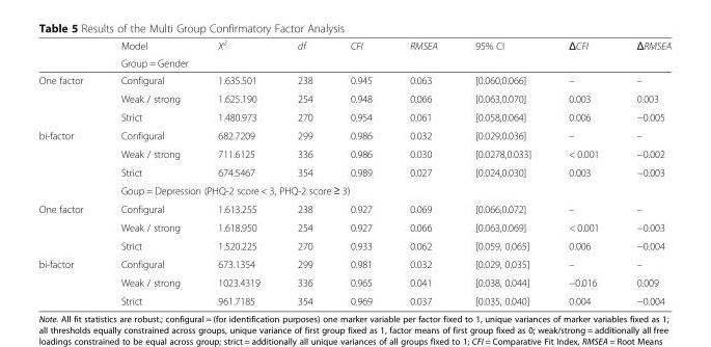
<table><thead><tr><td rowspan="2"></td><td>Model</td><td>X<sup>2</sup></td><td>df</td><td>CFI</td><td>RMSEA</td><td>95% CI</td><td>ΔCFI</td><td>ΔRMSEA</td></tr><tr><td colspan="8">Group = Gender</td></tr></thead><tbody><tr><td rowspan="3">One factor</td><td>Configural</td><td>1.635.501</td><td>238</td><td>0.945</td><td>0.063</td><td>[0.060,0.066]</td><td>–</td><td>–</td></tr><tr><td>Weak / strong</td><td>1.625.190</td><td>254</td><td>0.948</td><td>0.066</td><td>[0.063,0.070]</td><td>0.003</td><td>0.003</td></tr><tr><td>Strict</td><td>1.480.973</td><td>270</td><td>0.954</td><td>0.061</td><td>[0.058,0.064]</td><td>0.006</td><td>−0.005</td></tr><tr><td rowspan="4">bi-factor</td><td>Configural</td><td>682.7209</td><td>299</td><td>0.986</td><td>0.032</td><td>[0.029,0.036]</td><td>–</td><td>–</td></tr><tr><td>Weak / strong</td><td>711.6125</td><td>336</td><td>0.986</td><td>0.030</td><td>[0.0278,0.033]</td><td>&lt; 0.001</td><td>−0.002</td></tr><tr><td>Strict</td><td>674.5467</td><td>354</td><td>0.989</td><td>0.027</td><td>[0.024,0.030]</td><td>0.003</td><td>−0.003</td></tr><tr><td colspan="8">Goup = Depression (PHQ-2 score &lt; 3, PHQ-2 score ≥ 3)</td></tr><tr><td rowspan="3">One factor</td><td>Configural</td><td>1.613.255</td><td>238</td><td>0.927</td><td>0.069</td><td>[0.066,0.072]</td><td>–</td><td>–</td></tr><tr><td>Weak / strong</td><td>1.618.950</td><td>254</td><td>0.927</td><td>0.066</td><td>[0.063,0.069]</td><td>&lt; 0.001</td><td>−0.003</td></tr><tr><td>Strict</td><td>1.520.225</td><td>270</td><td>0.933</td><td>0.062</td><td>[0.059, 0.065]</td><td>0.006</td><td>−0.004</td></tr><tr><td rowspan="3">bi-factor</td><td>Configural</td><td>673.1354</td><td>299</td><td>0.981</td><td>0.032</td><td>[0.029, 0.035]</td><td>–</td><td>–</td></tr><tr><td>Weak / strong</td><td>1023.4319</td><td>336</td><td>0.965</td><td>0.041</td><td>[0.038, 0.044]</td><td>−0.016</td><td>0.009</td></tr><tr><td>Strict</td><td>961.7185</td><td>354</td><td>0.969</td><td>0.037</td><td>[0.035, 0.040]</td><td>0.004</td><td>−0.004</td></tr></tbody></table>